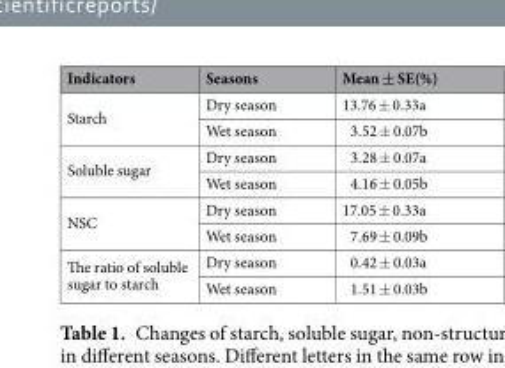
<table><thead><tr><td>Indicators</td><td>Seasons</td><td>Mean ± SE(%)</td></tr></thead><tbody><tr><td rowspan="2">Starch</td><td>Dry season</td><td>13.76 ± 0.33a</td></tr><tr><td>Wet season</td><td>3.52 ± 0.07b</td></tr><tr><td rowspan="2">Soluble sugar</td><td>Dry season</td><td>3.28 ± 0.07a</td></tr><tr><td>Wet season</td><td>4.16 ± 0.05b</td></tr><tr><td rowspan="2">NSC</td><td>Dry season</td><td>17.05 ± 0.33a</td></tr><tr><td>Wet season</td><td>7.69 ± 0.09b</td></tr><tr><td rowspan="2">The ratio of soluble sugar to starch</td><td>Dry season</td><td>0.42 ± 0.03a</td></tr><tr><td>Wet season</td><td>1.51 ± 0.03b</td></tr></tbody></table>